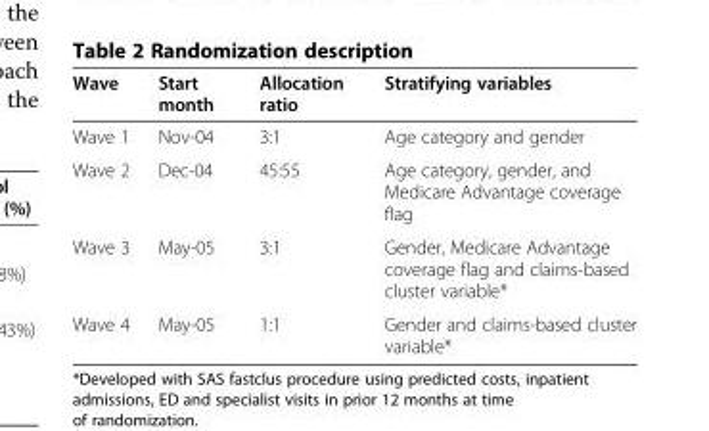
<table><thead><tr><td>Wave</td><td>Start month</td><td>Allocation ratio</td><td>Stratifying variables</td></tr></thead><tbody><tr><td>Wave 1</td><td>Nov-04</td><td>3:1</td><td>Age category and gender</td></tr><tr><td>Wave 2</td><td>Dec-04</td><td>45:55</td><td>Age category, gender, and Medicare Advantage coverage flag</td></tr><tr><td>Wave 3</td><td>May-05</td><td>3:1</td><td>Gender, Medicare Advantage coverage flag and claims-based cluster variable*</td></tr><tr><td>Wave 4</td><td>May-05</td><td>1:1</td><td>Gender and claims-based cluster variable*</td></tr></tbody></table>